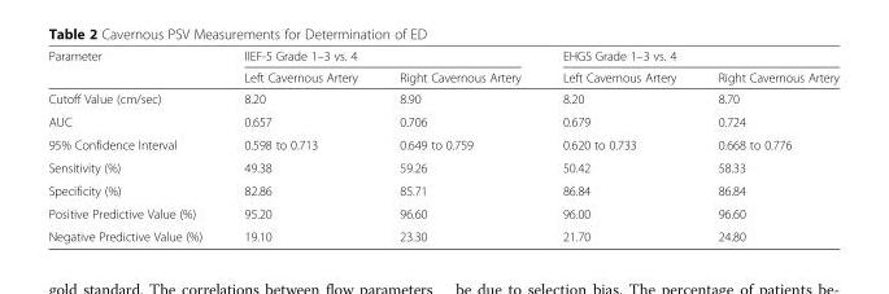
<table><thead><tr><td rowspan="2">Parameter</td><td colspan="2">IIEF-5 Grade 1–3 vs. 4</td><td colspan="2">EHGS Grade 1–3 vs. 4</td></tr><tr><td>Left Cavernous Artery</td><td>Right Cavernous Artery</td><td>Left Cavernous Artery</td><td>Right Cavernous Artery</td></tr></thead><tbody><tr><td>Cutoff Value (cm/sec)</td><td>8.20</td><td>8.90</td><td>8.20</td><td>8.70</td></tr><tr><td>AUC</td><td>0.657</td><td>0.706</td><td>0.679</td><td>0.724</td></tr><tr><td>95% Confidence Interval</td><td>0.598 to 0.713</td><td>0.649 to 0.759</td><td>0.620 to 0.733</td><td>0.668 to 0.776</td></tr><tr><td>Sensitivity (%)</td><td>49.38</td><td>59.26</td><td>50.42</td><td>58.33</td></tr><tr><td>Specificity (%)</td><td>82.86</td><td>85.71</td><td>86.84</td><td>86.84</td></tr><tr><td>Positive Predictive Value (%)</td><td>95.20</td><td>96.60</td><td>96.00</td><td>96.60</td></tr><tr><td>Negative Predictive Value (%)</td><td>19.10</td><td>23.30</td><td>21.70</td><td>24.80</td></tr></tbody></table>